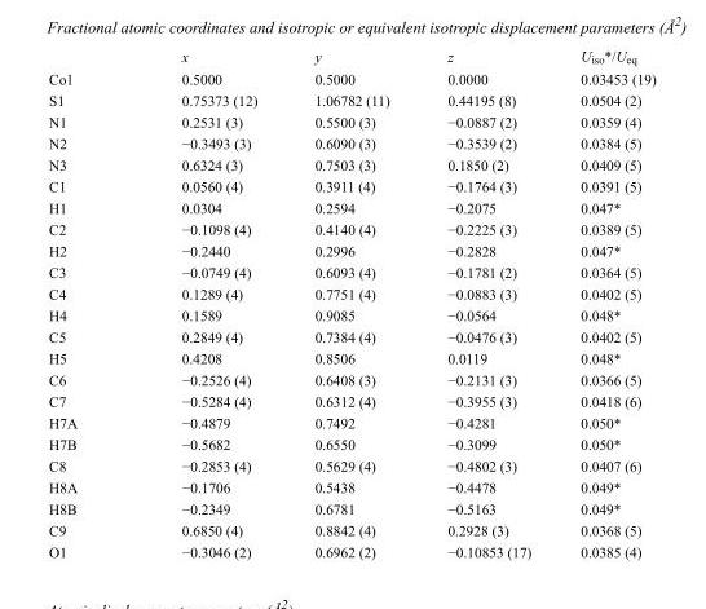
<table><thead><tr><td></td><td>x</td><td>y</td><td>z</td><td>U<sub>iso</sub>*/U<sub>eq</sub></td></tr></thead><tbody><tr><td>Co1</td><td>0.5000</td><td>0.5000</td><td>0.0000</td><td>0.03453 (19)</td></tr><tr><td>S1</td><td>0.75373 (12)</td><td>1.06782 (11)</td><td>0.44195 (8)</td><td>0.0504 (2)</td></tr><tr><td>N1</td><td>0.2531 (3)</td><td>0.5500 (3)</td><td>−0.0887 (2)</td><td>0.0359 (4)</td></tr><tr><td>N2</td><td>−0.3493 (3)</td><td>0.6090 (3)</td><td>−0.3539 (2)</td><td>0.0384 (5)</td></tr><tr><td>N3</td><td>0.6324 (3)</td><td>0.7503 (3)</td><td>0.1850 (2)</td><td>0.0409 (5)</td></tr><tr><td>C1</td><td>0.0560 (4)</td><td>0.3911 (4)</td><td>−0.1764 (3)</td><td>0.0391 (5)</td></tr><tr><td>H1</td><td>0.0304</td><td>0.2594</td><td>−0.2075</td><td>0.047*</td></tr><tr><td>C2</td><td>−0.1098 (4)</td><td>0.4140 (4)</td><td>−0.2225 (3)</td><td>0.0389 (5)</td></tr><tr><td>H2</td><td>−0.2440</td><td>0.2996</td><td>−0.2828</td><td>0.047*</td></tr><tr><td>C3</td><td>−0.0749 (4)</td><td>0.6093 (4)</td><td>−0.1781 (2)</td><td>0.0364 (5)</td></tr><tr><td>C4</td><td>0.1289 (4)</td><td>0.7751 (4)</td><td>−0.0883 (3)</td><td>0.0402 (5)</td></tr><tr><td>H4</td><td>0.1589</td><td>0.9085</td><td>−0.0564</td><td>0.048*</td></tr><tr><td>C5</td><td>0.2849 (4)</td><td>0.7384 (4)</td><td>−0.0476 (3)</td><td>0.0402 (5)</td></tr><tr><td>H5</td><td>0.4208</td><td>0.8506</td><td>0.0119</td><td>0.048*</td></tr><tr><td>C6</td><td>−0.2526 (4)</td><td>0.6408 (3)</td><td>−0.2131 (3)</td><td>0.0366 (5)</td></tr><tr><td>C7</td><td>−0.5284 (4)</td><td>0.6312 (4)</td><td>−0.3955 (3)</td><td>0.0418 (6)</td></tr><tr><td>H7A</td><td>−0.4879</td><td>0.7492</td><td>−0.4281</td><td>0.050*</td></tr><tr><td>H7B</td><td>−0.5682</td><td>0.6550</td><td>−0.3099</td><td>0.050*</td></tr><tr><td>C8</td><td>−0.2853 (4)</td><td>0.5629 (4)</td><td>−0.4802 (3)</td><td>0.0407 (6)</td></tr><tr><td>H8A</td><td>−0.1706</td><td>0.5438</td><td>−0.4478</td><td>0.049*</td></tr><tr><td>H8B</td><td>−0.2349</td><td>0.6781</td><td>−0.5163</td><td>0.049*</td></tr><tr><td>C9</td><td>0.6850 (4)</td><td>0.8842 (4)</td><td>0.2928 (3)</td><td>0.0368 (5)</td></tr><tr><td>O1</td><td>−0.3046 (2)</td><td>0.6962 (2)</td><td>−0.10853 (17)</td><td>0.0385 (4)</td></tr></tbody></table>